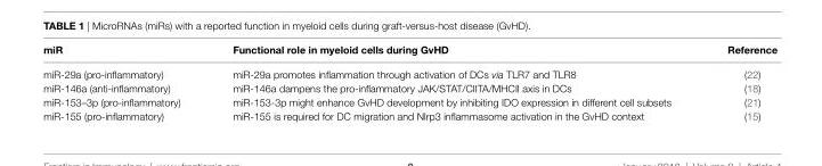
<table><thead><tr><td>miR</td><td>Functional role in myeloid cells during GvHD</td><td>Reference</td></tr></thead><tbody><tr><td>miR-29a (pro-inflammatory)</td><td>miR-29a promotes inflammation through activation of DCs via TLR7 and TLR8</td><td>(22)</td></tr><tr><td>miR-146a (anti-inflammatory)</td><td>miR-146a dampens the pro-inflammatory JAK/STAT/CIITA/MHCII axis in DCs</td><td>(18)</td></tr><tr><td>miR-153–3p (pro-inflammatory)</td><td>miR-153-3p might enhance GvHD development by inhibiting IDO expression in different cell subsets</td><td>(21)</td></tr><tr><td>miR-155 (pro-inflammatory)</td><td>miR-155 is required for DC migration and Nlrp3 inflammasome activation in the GvHD context</td><td>(15)</td></tr></tbody></table>